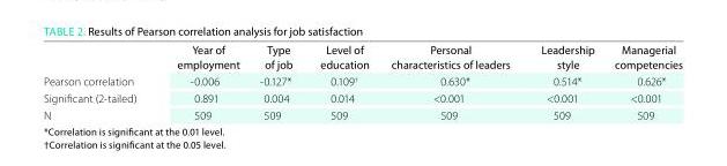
<table><thead><tr><td></td><td>Year of employment</td><td>type of job</td><td>Level of education</td><td>Personal characteristics of leaders</td><td>Leadership style</td><td>Managerial competencies</td></tr></thead><tbody><tr><td>Pearson correlation</td><td>-0.006</td><td>-0.127*</td><td>0.109<sup>†</sup></td><td>0.630*</td><td>0.514*</td><td>0.626*</td></tr><tr><td>Significant (2-tailed)</td><td>0.891</td><td>0.004</td><td>0.014</td><td>&lt;0.001</td><td>&lt;0.001</td><td>&lt;0.001</td></tr><tr><td>N</td><td>509</td><td>509</td><td>509</td><td>509</td><td>509</td><td>509</td></tr></tbody></table>